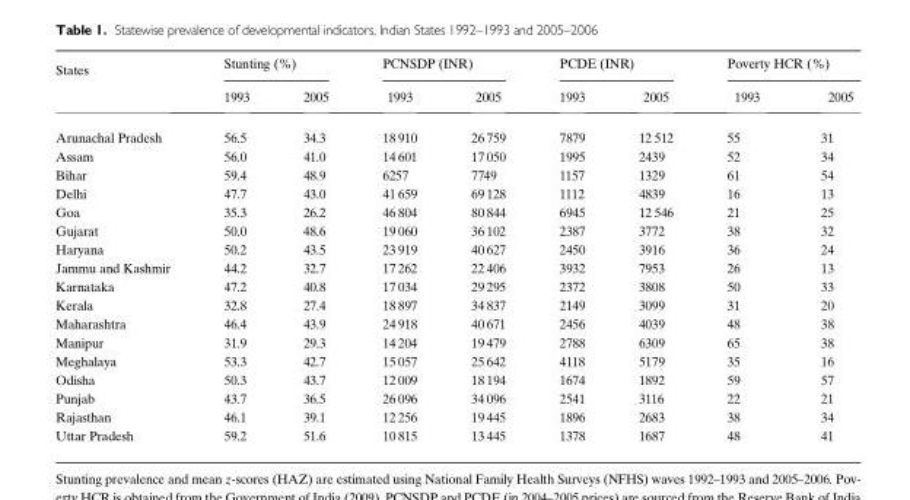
<table><thead><tr><td rowspan="2">States</td><td colspan="2">Stunting (%)</td><td colspan="2">PCNSDP (INR)</td><td colspan="2">PCDE (INR)</td><td colspan="2">Poverty HCR (%)</td></tr><tr><td>1993</td><td>2005</td><td>1993</td><td>2005</td><td>1993</td><td>2005</td><td>1993</td><td>2005</td></tr></thead><tbody><tr><td>Arunachal Pradesh</td><td>56.5</td><td>34.3</td><td>18 910</td><td>26 759</td><td>7879</td><td>12 512</td><td>55</td><td>31</td></tr><tr><td>Assam</td><td>56.0</td><td>41.0</td><td>14 601</td><td>17 050</td><td>1995</td><td>2439</td><td>52</td><td>34</td></tr><tr><td>Bihar</td><td>59.4</td><td>48.9</td><td>6257</td><td>7749</td><td>1157</td><td>1329</td><td>61</td><td>54</td></tr><tr><td>Delhi</td><td>47.7</td><td>43.0</td><td>41 659</td><td>69 128</td><td>1112</td><td>4839</td><td>16</td><td>13</td></tr><tr><td>Goa</td><td>35.3</td><td>26.2</td><td>46 804</td><td>80 844</td><td>6945</td><td>12 546</td><td>21</td><td>25</td></tr><tr><td>Gujarat</td><td>50.0</td><td>48.6</td><td>19 060</td><td>36 102</td><td>2387</td><td>3772</td><td>38</td><td>32</td></tr><tr><td>Haryana</td><td>50.2</td><td>43.5</td><td>23 919</td><td>40 627</td><td>2450</td><td>3916</td><td>36</td><td>24</td></tr><tr><td>Jammu and Kashmir</td><td>44.2</td><td>32.7</td><td>17 262</td><td>22 406</td><td>3932</td><td>7953</td><td>26</td><td>13</td></tr><tr><td>Karnataka</td><td>47.2</td><td>40.8</td><td>17 034</td><td>29 295</td><td>2372</td><td>3808</td><td>50</td><td>33</td></tr><tr><td>Kerala</td><td>32.8</td><td>27.4</td><td>18 897</td><td>34 837</td><td>2149</td><td>3099</td><td>31</td><td>20</td></tr><tr><td>Maharashtra</td><td>46.4</td><td>43.9</td><td>24 918</td><td>40 671</td><td>2456</td><td>4039</td><td>48</td><td>38</td></tr><tr><td>Manipur</td><td>31.9</td><td>29.3</td><td>14 204</td><td>19 479</td><td>2788</td><td>6309</td><td>65</td><td>38</td></tr><tr><td>Meghalaya</td><td>53.3</td><td>42.7</td><td>15 057</td><td>25 642</td><td>4118</td><td>5179</td><td>35</td><td>16</td></tr><tr><td>Odisha</td><td>50.3</td><td>43.7</td><td>12 009</td><td>18 194</td><td>1674</td><td>1892</td><td>59</td><td>57</td></tr><tr><td>Punjab</td><td>43.7</td><td>36.5</td><td>26 096</td><td>34 096</td><td>2541</td><td>3116</td><td>22</td><td>21</td></tr><tr><td>Rajasthan</td><td>46.1</td><td>39.1</td><td>12 256</td><td>19 445</td><td>1896</td><td>2683</td><td>38</td><td>34</td></tr><tr><td>Uttar Pradesh</td><td>59.2</td><td>51.6</td><td>10 815</td><td>13 445</td><td>1378</td><td>1687</td><td>48</td><td>41</td></tr></tbody></table>